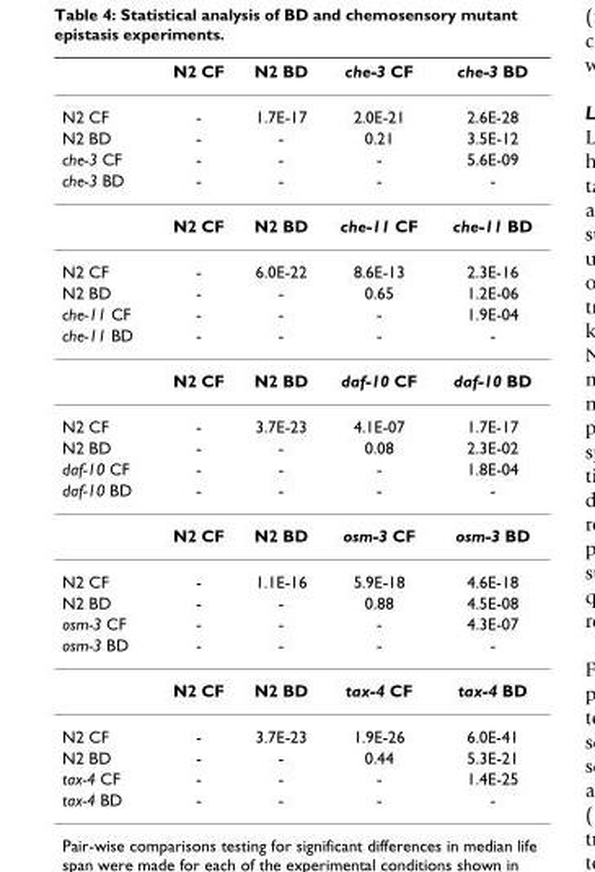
<table><thead><tr><td></td><td>N2 CF</td><td>N2 BD</td><td>che-3 CF</td><td>che-3 BD</td></tr></thead><tbody><tr><td>N2 CF</td><td>-</td><td>1.7E-17</td><td>2.0E-21</td><td>2.6E-28</td></tr><tr><td>N2 BD</td><td>-</td><td>-</td><td>0.21</td><td>3.5E-12</td></tr><tr><td>che-3 CF</td><td>-</td><td>-</td><td>-</td><td>5.6E-09</td></tr><tr><td rowspan="2">che-3 BD</td><td>-</td><td>-</td><td>-</td><td>-</td></tr><tr><td>N2 CF</td><td>N2 BD</td><td>che-11 CF</td><td>che-11 BD</td></tr><tr><td>N2 CF</td><td>-</td><td>6.0E-22</td><td>8.6E-13</td><td>2.3E-16</td></tr><tr><td>N2 BD</td><td>-</td><td>-</td><td>0.65</td><td>1.2E-06</td></tr><tr><td>che-11 CF</td><td>-</td><td>-</td><td>-</td><td>1.9E-04</td></tr><tr><td rowspan="2">che-11 BD</td><td>-</td><td>-</td><td>-</td><td>-</td></tr><tr><td>N2 CF</td><td>N2 BD</td><td>daf-10 CF</td><td>daf-10 BD</td></tr><tr><td>N2 CF</td><td>-</td><td>3.7E-23</td><td>4.1E-07</td><td>1.7E-17</td></tr><tr><td>N2 BD</td><td>-</td><td>-</td><td>0.08</td><td>2.3E-02</td></tr><tr><td>daf-10 CF</td><td>-</td><td>-</td><td>-</td><td>1.8E-04</td></tr><tr><td rowspan="2">daf-10 BD</td><td>-</td><td>-</td><td>-</td><td>-</td></tr><tr><td>N2 CF</td><td>N2 BD</td><td>osm-3 CF</td><td>osm-3 BD</td></tr><tr><td>N2 CF</td><td>-</td><td>1.1E-16</td><td>5.9E-18</td><td>4.6E-18</td></tr><tr><td>N2 BD</td><td>-</td><td>-</td><td>0.88</td><td>4.5E-08</td></tr><tr><td>osm-3 CF</td><td>-</td><td>-</td><td>-</td><td>4.3E-07</td></tr><tr><td rowspan="2">osm-3 BD</td><td>-</td><td>-</td><td>-</td><td>-</td></tr><tr><td>N2 CF</td><td>N2 BD</td><td>tax-4 CF</td><td>tax-4 BD</td></tr><tr><td>N2 CF</td><td>-</td><td>3.7E-23</td><td>1.9E-26</td><td>6.0E-41</td></tr><tr><td>N2 BD</td><td>-</td><td>-</td><td>0.44</td><td>5.3E-21</td></tr><tr><td>tax-4 CF</td><td>-</td><td>-</td><td>-</td><td>1.4E-25</td></tr><tr><td>tax-4 BD</td><td>-</td><td>-</td><td>-</td><td>-</td></tr></tbody></table>